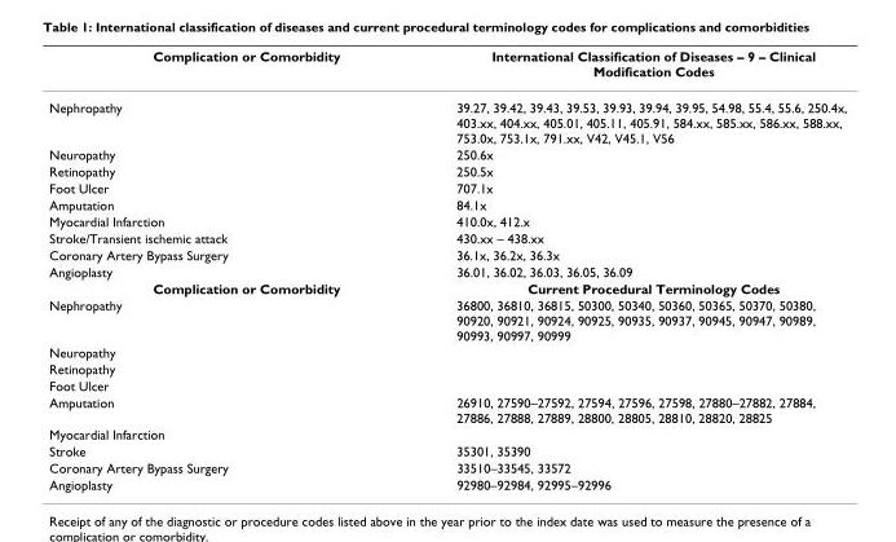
<table><thead><tr><td>Complication or Comorbidity</td><td>International Classification of Diseases – 9 – Clinical Modification Codes</td></tr></thead><tbody><tr><td>Nephropathy</td><td>39.27, 39.42, 39.43, 39.53, 39.93, 39.94, 39.95, 54.98, 55.4, 55.6, 250.4x, 403.xx, 404.xx, 405.01, 405.11, 405.91, 584.xx, 585.xx, 586.xx, 588.xx, 753.0x, 753.1x, 791.xx, V42, V45.1, V56</td></tr><tr><td>Neuropathy</td><td>250.6x</td></tr><tr><td>Retinopathy</td><td>250.5x</td></tr><tr><td>Foot Ulcer</td><td>707.1x</td></tr><tr><td>Amputation</td><td>84.1x</td></tr><tr><td>Myocardial Infarction</td><td>410.0x, 412.x</td></tr><tr><td>Stroke/Transient ischemic attack</td><td>430.xx – 438.xx</td></tr><tr><td>Coronary Artery Bypass Surgery</td><td>36.1x, 36.2x, 36.3x</td></tr><tr><td>Angioplasty</td><td>36.01, 36.02, 36.03, 36.05, 36.09</td></tr><tr><td>Complication or Comorbidity</td><td>Current Procedural Terminology Codes</td></tr><tr><td>Nephropathy</td><td>36800, 36810, 36815, 50300, 50340, 50360, 50365, 50370, 50380, 90920, 90921, 90924, 90925, 90935, 90937, 90945, 90947, 90989, 90993, 90997, 90999</td></tr><tr><td colspan="2">Neuropathy</td></tr><tr><td colspan="2">Retinopathy</td></tr><tr><td colspan="2">Foot Ulcer</td></tr><tr><td>Amputation</td><td>26910, 27590–27592, 27594, 27596, 27598, 27880–27882, 27884, 27886, 27888, 27889, 28800, 28805, 28810, 28820, 28825</td></tr><tr><td colspan="2">Myocardial Infarction</td></tr><tr><td>Stroke</td><td>35301, 35390</td></tr><tr><td>Coronary Artery Bypass Surgery</td><td>33510–33545, 33572</td></tr><tr><td>Angioplasty</td><td>92980–92984, 92995–92996</td></tr></tbody></table>